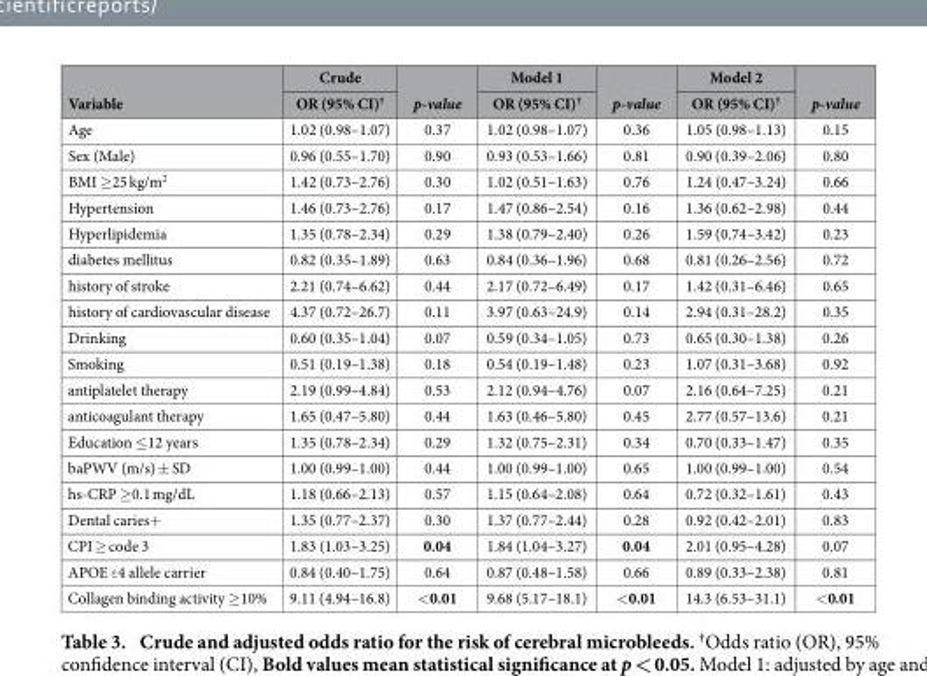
<table><thead><tr><td rowspan="2">Variable</td><td rowspan="2">Crude OR (95% CI)<sup>†</sup></td><td rowspan="2">p-value</td><td rowspan="2">Model 1 OR (95% CI)<sup>†</sup></td><td rowspan="2">p-value</td><td rowspan="2">Model 2 OR (95% CI)<sup>†</sup></td><td rowspan="2">p-value</td></tr><tr></tr></thead><tbody><tr><td>Age</td><td>1.02 (0.98–1.07)</td><td>0.37</td><td>1.02 (0.98–1.07)</td><td>0.36</td><td>1.05 (0.98–1.13)</td><td>0.15</td></tr><tr><td>Sex (Male)</td><td>0.96 (0.55–1.70)</td><td>0.90</td><td>0.93 (0.53–1.66)</td><td>0.81</td><td>0.90 (0.39–2.06)</td><td>0.80</td></tr><tr><td>BMI ≥ 25 kg/m<sup>2</sup></td><td>1.42 (0.73–2.76)</td><td>0.30</td><td>1.02 (0.51–1.63)</td><td>0.76</td><td>1.24 (0.47–3.24)</td><td>0.66</td></tr><tr><td>Hypertension</td><td>1.46 (0.73–2.76)</td><td>0.17</td><td>1.47 (0.86–2.54)</td><td>0.16</td><td>1.36 (0.62–2.98)</td><td>0.44</td></tr><tr><td>Hyperlipidemia</td><td>1.35 (0.78–2.34)</td><td>0.29</td><td>1.38 (0.79–2.40)</td><td>0.26</td><td>1.59 (0.74–3.42)</td><td>0.23</td></tr><tr><td>diabetes mellitus</td><td>0.82 (0.35–1.89)</td><td>0.63</td><td>0.84 (0.36–1.96)</td><td>0.68</td><td>0.81 (0.26–2.56)</td><td>0.72</td></tr><tr><td>history of stroke</td><td>2.21 (0.74–6.62)</td><td>0.44</td><td>2.17 (0.72–6.49)</td><td>0.17</td><td>1.42 (0.31–6.46)</td><td>0.65</td></tr><tr><td>history of cardiovascular disease</td><td>4.37 (0.72–26.7)</td><td>0.11</td><td>3.97 (0.63–24.9)</td><td>0.14</td><td>2.94 (0.31–28.2)</td><td>0.35</td></tr><tr><td>Drinking</td><td>0.60 (0.35–1.04)</td><td>0.07</td><td>0.59 (0.34–1.05)</td><td>0.73</td><td>0.65 (0.30–1.38)</td><td>0.26</td></tr><tr><td>Smoking</td><td>0.51 (0.19–1.38)</td><td>0.18</td><td>0.54 (0.19–1.48)</td><td>0.23</td><td>1.07 (0.31–3.68)</td><td>0.92</td></tr><tr><td>antiplatelet therapy</td><td>2.19 (0.99–4.84)</td><td>0.53</td><td>2.12 (0.94–4.76)</td><td>0.07</td><td>2.16 (0.64–7.25)</td><td>0.21</td></tr><tr><td>anticoagulant therapy</td><td>1.65 (0.47–5.80)</td><td>0.44</td><td>1.63 (0.46–5.80)</td><td>0.45</td><td>2.77 (0.57–13.6)</td><td>0.21</td></tr><tr><td>Education ≤ 12 years</td><td>1.35 (0.78–2.34)</td><td>0.29</td><td>1.32 (0.75–2.31)</td><td>0.34</td><td>0.70 (0.33–1.47)</td><td>0.35</td></tr><tr><td>baPWV (m/s) ± SD</td><td>1.00 (0.99–1.00)</td><td>0.44</td><td>1.00 (0.99–1.00)</td><td>0.65</td><td>1.00 (0.99–1.00)</td><td>0.54</td></tr><tr><td>hs-CRP ≥ 0.1 mg/dL</td><td>1.18 (0.66–2.13)</td><td>0.57</td><td>1.15 (0.64–2.08)</td><td>0.64</td><td>0.72 (0.32–1.61)</td><td>0.43</td></tr><tr><td>Dental caries+</td><td>1.35 (0.77–2.37)</td><td>0.30</td><td>1.37 (0.77–2.44)</td><td>0.28</td><td>0.92 (0.42–2.01)</td><td>0.83</td></tr><tr><td>CPI ≥ code 3</td><td>1.83 (1.03–3.25)</td><td>0.04</td><td>1.84 (1.04–3.27)</td><td>0.04</td><td>2.01 (0.95–4.28)</td><td>0.07</td></tr><tr><td>APOE ε 4 allele carrier</td><td>0.84 (0.40–1.75)</td><td>0.64</td><td>0.87 (0.48–1.58)</td><td>0.66</td><td>0.89 (0.33–2.38)</td><td>0.81</td></tr><tr><td>Collagen binding activity ≥ 10%</td><td>9.11 (4.94–16.8)</td><td>&lt; 0.01</td><td>9.68 (5.17–18.1)</td><td>&lt; 0.01</td><td>14.3 (6.53–31.1)</td><td>&lt; 0.01</td></tr></tbody></table>